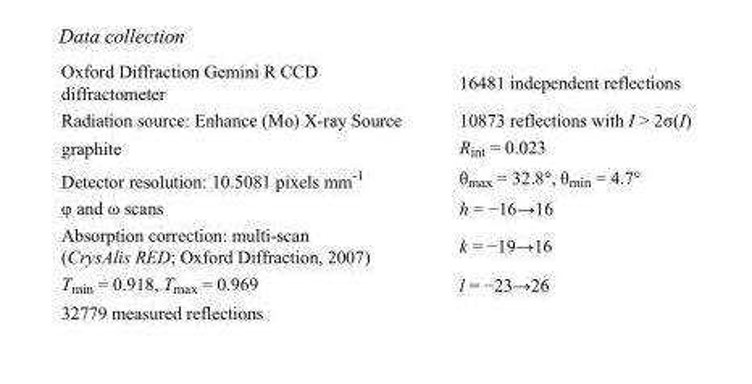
<table><tbody><tr><td>Oxford Diffraction Gemini R CCD diffractometer</td><td>16481 independent reflections</td></tr><tr><td>Radiation source: Enhance (Mo) X-ray Source</td><td>10873 reflections with I &gt; 2σ(I)</td></tr><tr><td>graphite</td><td>R<sub>int</sub> = 0.023</td></tr><tr><td>Detector resolution: 10.5081 pixels mm<sup>-1</sup></td><td>θ<sub>max</sub> = 32.8°, θ<sub>min</sub> = 4.7°</td></tr><tr><td>φ and ω scans</td><td>h = −16→16</td></tr><tr><td>Absorption correction: multi-scan (CrysAlis RED; Oxford Diffraction, 2007)</td><td>k = −19→16</td></tr><tr><td>T<sub>min</sub> = 0.918, T<sub>max</sub> = 0.969</td><td>l = −23→26</td></tr><tr><td>32779 measured reflections</td><td></td></tr></tbody></table>